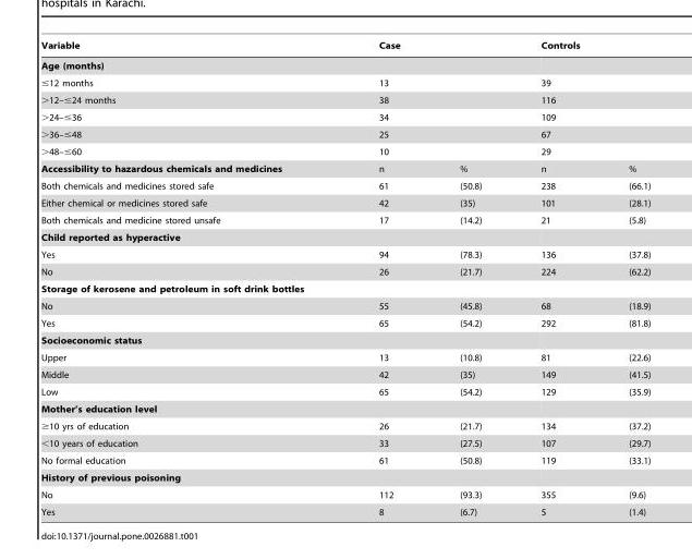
<table><thead><tr><td>Variable</td><td colspan="2">Case</td><td colspan="2">Controls</td></tr></thead><tbody><tr><td colspan="5">Age (months)</td></tr><tr><td>≤12 months</td><td colspan="2">13</td><td colspan="2">39</td></tr><tr><td>&gt;12–≤24 months</td><td colspan="2">38</td><td colspan="2">116</td></tr><tr><td>&gt;24–≤36</td><td colspan="2">34</td><td colspan="2">109</td></tr><tr><td>&gt;36–≤48</td><td colspan="2">25</td><td colspan="2">67</td></tr><tr><td>&gt;48–≤60</td><td colspan="2">10</td><td colspan="2">29</td></tr><tr><td>Accessibility to hazardous chemicals and medicines</td><td>n</td><td>%</td><td>n</td><td>%</td></tr><tr><td>Both chemicals and medicines stored safe</td><td>61</td><td>(50.8)</td><td>238</td><td>(66.1)</td></tr><tr><td>Either chemical or medicines stored safe</td><td>42</td><td>(35)</td><td>101</td><td>(28.1)</td></tr><tr><td>Both chemicals and medicine stored unsafe</td><td>17</td><td>(14.2)</td><td>21</td><td>(5.8)</td></tr><tr><td colspan="5">Child reported as hyperactive</td></tr><tr><td>Yes</td><td>94</td><td>(78.3)</td><td>136</td><td>(37.8)</td></tr><tr><td>No</td><td>26</td><td>(21.7)</td><td>224</td><td>(62.2)</td></tr><tr><td colspan="5">Storage of kerosene and petroleum in soft drink bottles</td></tr><tr><td>No</td><td>55</td><td>(45.8)</td><td>68</td><td>(18.9)</td></tr><tr><td>Yes</td><td>65</td><td>(54.2)</td><td>292</td><td>(81.8)</td></tr><tr><td colspan="5">Socioeconomic status</td></tr><tr><td>Upper</td><td>13</td><td>(10.8)</td><td>81</td><td>(22.6)</td></tr><tr><td>Middle</td><td>42</td><td>(35)</td><td>149</td><td>(41.5)</td></tr><tr><td>Low</td><td>65</td><td>(54.2)</td><td>129</td><td>(35.9)</td></tr><tr><td colspan="5">Mother’s education level</td></tr><tr><td>≥10 yrs of education</td><td>26</td><td>(21.7)</td><td>134</td><td>(37.2)</td></tr><tr><td>&lt;10 years of education</td><td>33</td><td>(27.5)</td><td>107</td><td>(29.7)</td></tr><tr><td>No formal education</td><td>61</td><td>(50.8)</td><td>119</td><td>(33.1)</td></tr><tr><td colspan="5">History of previous poisoning</td></tr><tr><td>No</td><td>112</td><td>(93.3)</td><td>355</td><td>(9.6)</td></tr><tr><td>Yes</td><td>8</td><td>(6.7)</td><td>5</td><td>(1.4)</td></tr></tbody></table>